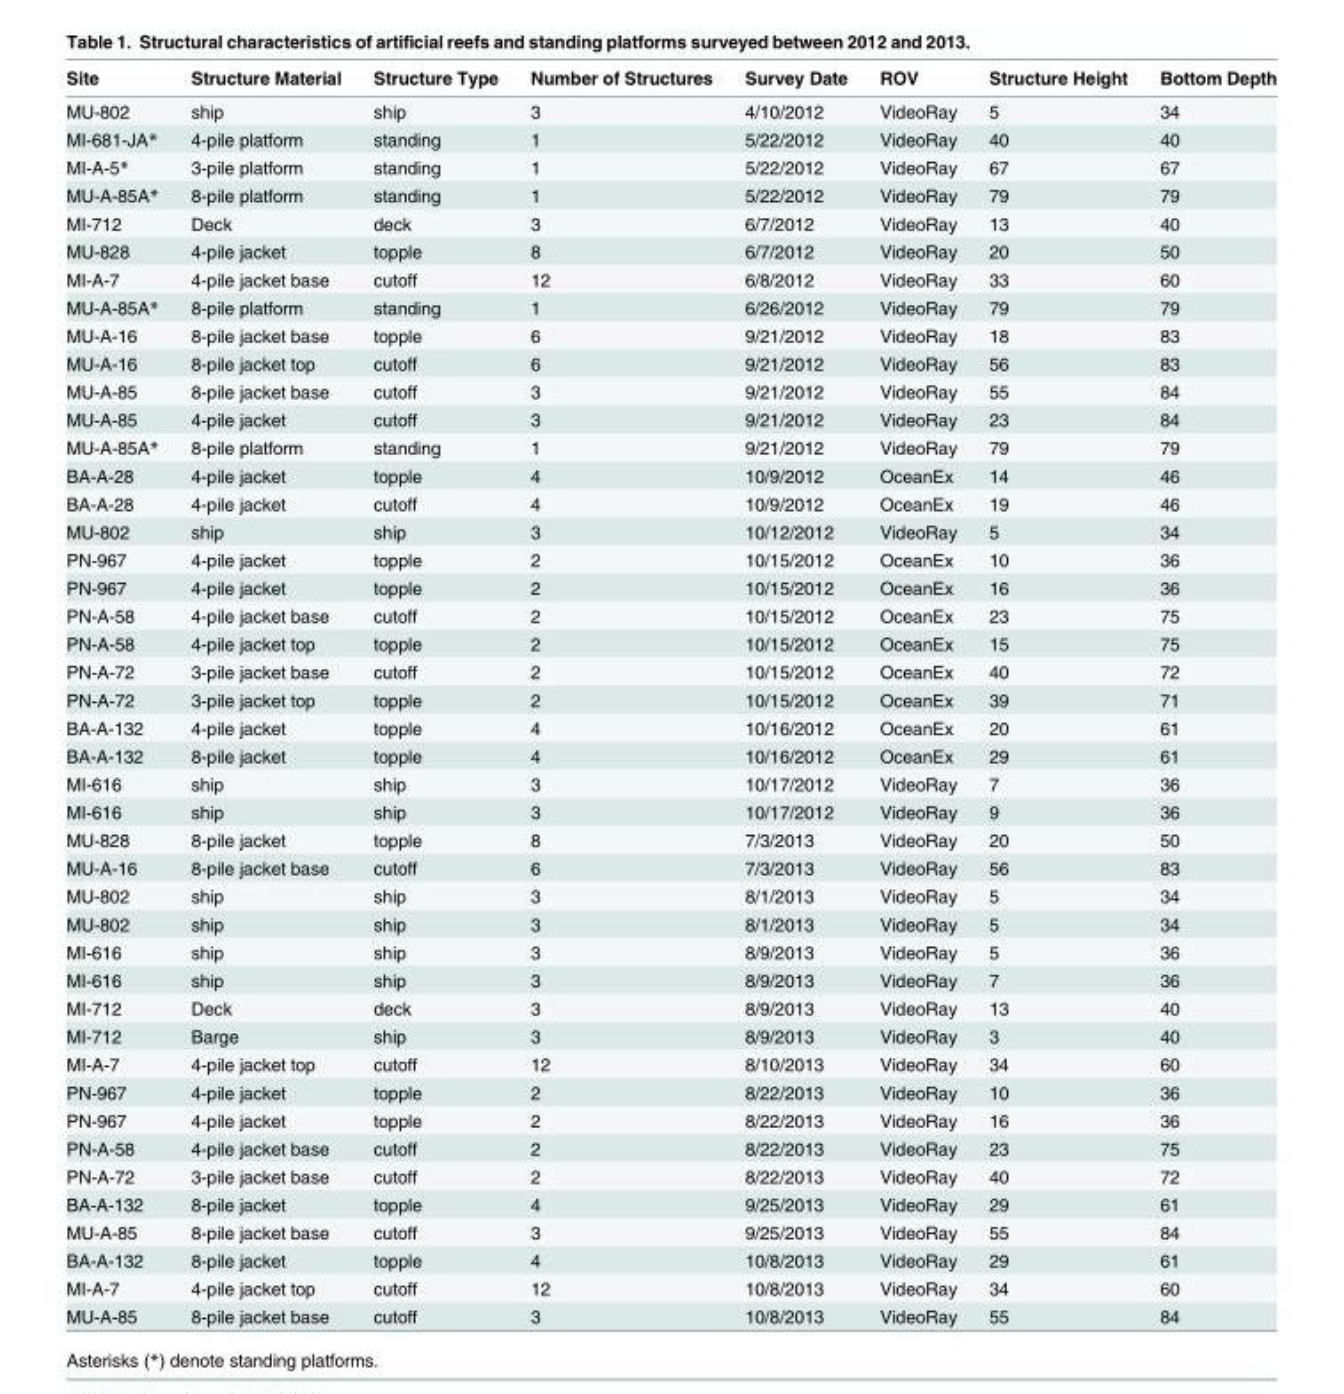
<table><thead><tr><td>Site</td><td>Structure Material</td><td>Structure Type</td><td>Number of Structures</td><td>Survey Date</td><td>ROV</td><td>Structure Height</td><td>Bottom Depth</td></tr></thead><tbody><tr><td>MU-802</td><td>ship</td><td>ship</td><td>3</td><td>4/10/2012</td><td>VideoRay</td><td>5</td><td>34</td></tr><tr><td>MI-681-JA*</td><td>4-pile platform</td><td>standing</td><td>1</td><td>5/22/2012</td><td>VideoRay</td><td>40</td><td>40</td></tr><tr><td>MI-A-5*</td><td>3-pile platform</td><td>standing</td><td>1</td><td>5/22/2012</td><td>VideoRay</td><td>67</td><td>67</td></tr><tr><td>MU-A-85A*</td><td>8-pile platform</td><td>standing</td><td>1</td><td>5/22/2012</td><td>VideoRay</td><td>79</td><td>79</td></tr><tr><td>MI-712</td><td>Deck</td><td>deck</td><td>3</td><td>6/7/2012</td><td>VideoRay</td><td>13</td><td>40</td></tr><tr><td>MU-828</td><td>4-pile jacket</td><td>topple</td><td>8</td><td>6/7/2012</td><td>VideoRay</td><td>20</td><td>50</td></tr><tr><td>MI-A-7</td><td>4-pile jacket base</td><td>cutoff</td><td>12</td><td>6/8/2012</td><td>VideoRay</td><td>33</td><td>60</td></tr><tr><td>MU-A-85A*</td><td>8-pile platform</td><td>standing</td><td>1</td><td>6/26/2012</td><td>VideoRay</td><td>79</td><td>79</td></tr><tr><td>MU-A-16</td><td>8-pile jacket base</td><td>topple</td><td>6</td><td>9/21/2012</td><td>VideoRay</td><td>18</td><td>83</td></tr><tr><td>MU-A-16</td><td>8-pile jacket top</td><td>cutoff</td><td>6</td><td>9/21/2012</td><td>VideoRay</td><td>56</td><td>83</td></tr><tr><td>MU-A-85</td><td>8-pile jacket base</td><td>cutoff</td><td>3</td><td>9/21/2012</td><td>VideoRay</td><td>55</td><td>84</td></tr><tr><td>MU-A-85</td><td>4-pile jacket</td><td>cutoff</td><td>3</td><td>9/21/2012</td><td>VideoRay</td><td>23</td><td>84</td></tr><tr><td>MU-A-85A*</td><td>8-pile platform</td><td>standing</td><td>1</td><td>9/21/2012</td><td>VideoRay</td><td>79</td><td>79</td></tr><tr><td>BA-A-28</td><td>4-pile jacket</td><td>topple</td><td>4</td><td>10/9/2012</td><td>OceanEx</td><td>14</td><td>46</td></tr><tr><td>BA-A-28</td><td>4-pile jacket</td><td>cutoff</td><td>4</td><td>10/9/2012</td><td>OceanEx</td><td>19</td><td>46</td></tr><tr><td>MU-802</td><td>ship</td><td>ship</td><td>3</td><td>10/12/2012</td><td>VideoRay</td><td>5</td><td>34</td></tr><tr><td>PN-967</td><td>4-pile jacket</td><td>topple</td><td>2</td><td>10/15/2012</td><td>OceanEx</td><td>10</td><td>36</td></tr><tr><td>PN-967</td><td>4-pile jacket</td><td>topple</td><td>2</td><td>10/15/2012</td><td>OceanEx</td><td>16</td><td>36</td></tr><tr><td>PN-A-58</td><td>4-pile jacket base</td><td>cutoff</td><td>2</td><td>10/15/2012</td><td>OceanEx</td><td>23</td><td>75</td></tr><tr><td>PN-A-58</td><td>4-pile jacket top</td><td>topple</td><td>2</td><td>10/15/2012</td><td>OceanEx</td><td>15</td><td>75</td></tr><tr><td>PN-A-72</td><td>3-pile jacket base</td><td>cutoff</td><td>2</td><td>10/15/2012</td><td>OceanEx</td><td>40</td><td>72</td></tr><tr><td>PN-A-72</td><td>3-pile jacket top</td><td>topple</td><td>2</td><td>10/15/2012</td><td>OceanEx</td><td>39</td><td>71</td></tr><tr><td>BA-A-132</td><td>4-pile jacket</td><td>topple</td><td>4</td><td>10/16/2012</td><td>OceanEx</td><td>20</td><td>61</td></tr><tr><td>BA-A-132</td><td>8-pile jacket</td><td>topple</td><td>4</td><td>10/16/2012</td><td>OceanEx</td><td>29</td><td>61</td></tr><tr><td>MI-616</td><td>ship</td><td>ship</td><td>3</td><td>10/17/2012</td><td>VideoRay</td><td>7</td><td>36</td></tr><tr><td>MI-616</td><td>ship</td><td>ship</td><td>3</td><td>10/17/2012</td><td>VideoRay</td><td>9</td><td>36</td></tr><tr><td>MU-828</td><td>8-pile jacket</td><td>topple</td><td>8</td><td>7/3/2013</td><td>VideoRay</td><td>20</td><td>50</td></tr><tr><td>MU-A-16</td><td>8-pile jacket base</td><td>cutoff</td><td>6</td><td>7/3/2013</td><td>VideoRay</td><td>56</td><td>83</td></tr><tr><td>MU-802</td><td>ship</td><td>ship</td><td>3</td><td>8/1/2013</td><td>VideoRay</td><td>5</td><td>34</td></tr><tr><td>MU-802</td><td>ship</td><td>ship</td><td>3</td><td>8/1/2013</td><td>VideoRay</td><td>5</td><td>34</td></tr><tr><td>MI-616</td><td>ship</td><td>ship</td><td>3</td><td>8/9/2013</td><td>VideoRay</td><td>5</td><td>36</td></tr><tr><td>MI-616</td><td>ship</td><td>ship</td><td>3</td><td>8/9/2013</td><td>VideoRay</td><td>7</td><td>36</td></tr><tr><td>MI-712</td><td>Deck</td><td>deck</td><td>3</td><td>8/9/2013</td><td>VideoRay</td><td>13</td><td>40</td></tr><tr><td>MI-712</td><td>Barge</td><td>ship</td><td>3</td><td>8/9/2013</td><td>VideoRay</td><td>3</td><td>40</td></tr><tr><td>MI-A-7</td><td>4-pile jacket top</td><td>cutoff</td><td>12</td><td>8/10/2013</td><td>VideoRay</td><td>34</td><td>60</td></tr><tr><td>PN-967</td><td>4-pile jacket</td><td>topple</td><td>2</td><td>8/22/2013</td><td>VideoRay</td><td>10</td><td>36</td></tr><tr><td>PN-967</td><td>4-pile jacket</td><td>topple</td><td>2</td><td>8/22/2013</td><td>VideoRay</td><td>16</td><td>36</td></tr><tr><td>PN-A-58</td><td>4-pile jacket base</td><td>cutoff</td><td>2</td><td>8/22/2013</td><td>VideoRay</td><td>23</td><td>75</td></tr><tr><td>PN-A-72</td><td>3-pile jacket base</td><td>cutoff</td><td>2</td><td>8/22/2013</td><td>VideoRay</td><td>40</td><td>72</td></tr><tr><td>BA-A-132</td><td>8-pile jacket</td><td>topple</td><td>4</td><td>9/25/2013</td><td>VideoRay</td><td>29</td><td>61</td></tr><tr><td>MU-A-85</td><td>8-pile jacket base</td><td>cutoff</td><td>3</td><td>9/25/2013</td><td>VideoRay</td><td>55</td><td>84</td></tr><tr><td>BA-A-132</td><td>8-pile jacket</td><td>topple</td><td>4</td><td>10/8/2013</td><td>VideoRay</td><td>29</td><td>61</td></tr><tr><td>MI-A-7</td><td>4-pile jacket top</td><td>cutoff</td><td>12</td><td>10/8/2013</td><td>VideoRay</td><td>34</td><td>60</td></tr><tr><td>MU-A-85</td><td>8-pile jacket base</td><td>cutoff</td><td>3</td><td>10/8/2013</td><td>VideoRay</td><td>55</td><td>84</td></tr></tbody></table>